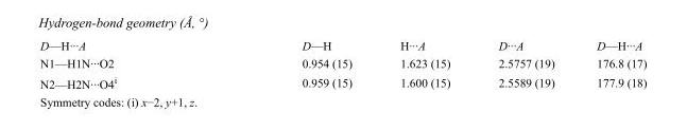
<table><tbody><tr><td>D—H···A</td><td>D—H</td><td>H···A</td><td>D···A</td><td>D—H···A</td></tr><tr><td>N1—H1N···O2</td><td>0.954 (15)</td><td>1.623 (15)</td><td>2.5757 (19)</td><td>176.8 (17)</td></tr><tr><td>N2—H2N···O4<sup>i</sup></td><td>0.959 (15)</td><td>1.600 (15)</td><td>2.5589 (19)</td><td>177.9 (18)</td></tr></tbody></table>